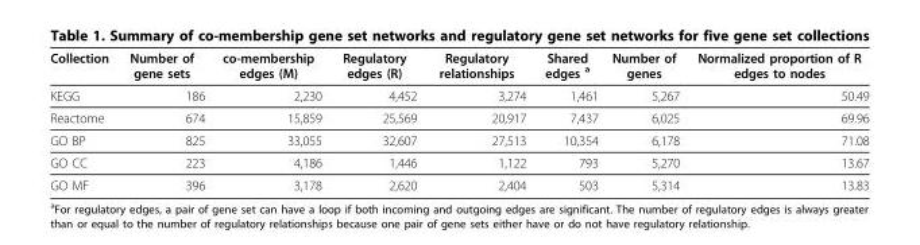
<table><thead><tr><td>Collection</td><td>Number of gene sets</td><td>co-membership edges (M)</td><td>Regulatory edges (R)</td><td>Regulatory relationships</td><td>Shared edges <sup>a</sup></td><td>Number of genes</td><td>Normalized proportion of R edges to nodes</td></tr></thead><tbody><tr><td>KEGG</td><td>186</td><td>2,230</td><td>4,452</td><td>3,274</td><td>1,461</td><td>5,267</td><td>50.49</td></tr><tr><td>Reactome</td><td>674</td><td>15,859</td><td>25,569</td><td>20,917</td><td>7,437</td><td>6,025</td><td>69.96</td></tr><tr><td>GO BP</td><td>825</td><td>33,055</td><td>32,607</td><td>27,513</td><td>10,354</td><td>6,178</td><td>71.08</td></tr><tr><td>GO CC</td><td>223</td><td>4,186</td><td>1,446</td><td>1,122</td><td>793</td><td>5,270</td><td>13.67</td></tr><tr><td>GO MF</td><td>396</td><td>3,178</td><td>2,620</td><td>2,404</td><td>503</td><td>5,314</td><td>13.83</td></tr></tbody></table>